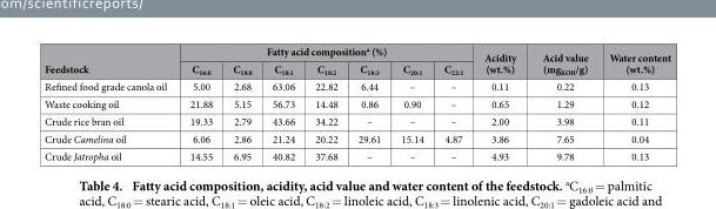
<table><thead><tr><td rowspan="2">Feedstock</td><td colspan="7">Fatty acid composition<sup>a</sup> (%)</td><td rowspan="2">Acidity (wt.%)</td><td rowspan="2">Acid value (mg<sub>KOH</sub>/g)</td><td rowspan="2">Water content (wt.%)</td></tr><tr><td>C<sub>16:0</sub></td><td>C<sub>18:0</sub></td><td>C<sub>18:1</sub></td><td>C<sub>18:2</sub></td><td>C<sub>18:3</sub></td><td>C<sub>20:1</sub></td><td>C<sub>22:1</sub></td></tr></thead><tbody><tr><td>Refined food grade canola oil</td><td>5.00</td><td>2.68</td><td>63.06</td><td>22.82</td><td>6.44</td><td>–</td><td>–</td><td>0.11</td><td>0.22</td><td>0.13</td></tr><tr><td>Waste cooking oil</td><td>21.88</td><td>5.15</td><td>56.73</td><td>14.48</td><td>0.86</td><td>0.90</td><td>–</td><td>0.65</td><td>1.29</td><td>0.12</td></tr><tr><td>Crude rice bran oil</td><td>19.33</td><td>2.79</td><td>43.66</td><td>34.22</td><td>–</td><td>–</td><td>–</td><td>2.00</td><td>3.98</td><td>0.11</td></tr><tr><td>Crude Camelina oil</td><td>6.06</td><td>2.86</td><td>21.24</td><td>20.22</td><td>29.61</td><td>15.14</td><td>4.87</td><td>3.86</td><td>7.65</td><td>0.04</td></tr><tr><td>Crude Jatropha oil</td><td>14.55</td><td>6.95</td><td>40.82</td><td>37.68</td><td>–</td><td>–</td><td>–</td><td>4.93</td><td>9.78</td><td>0.13</td></tr></tbody></table>